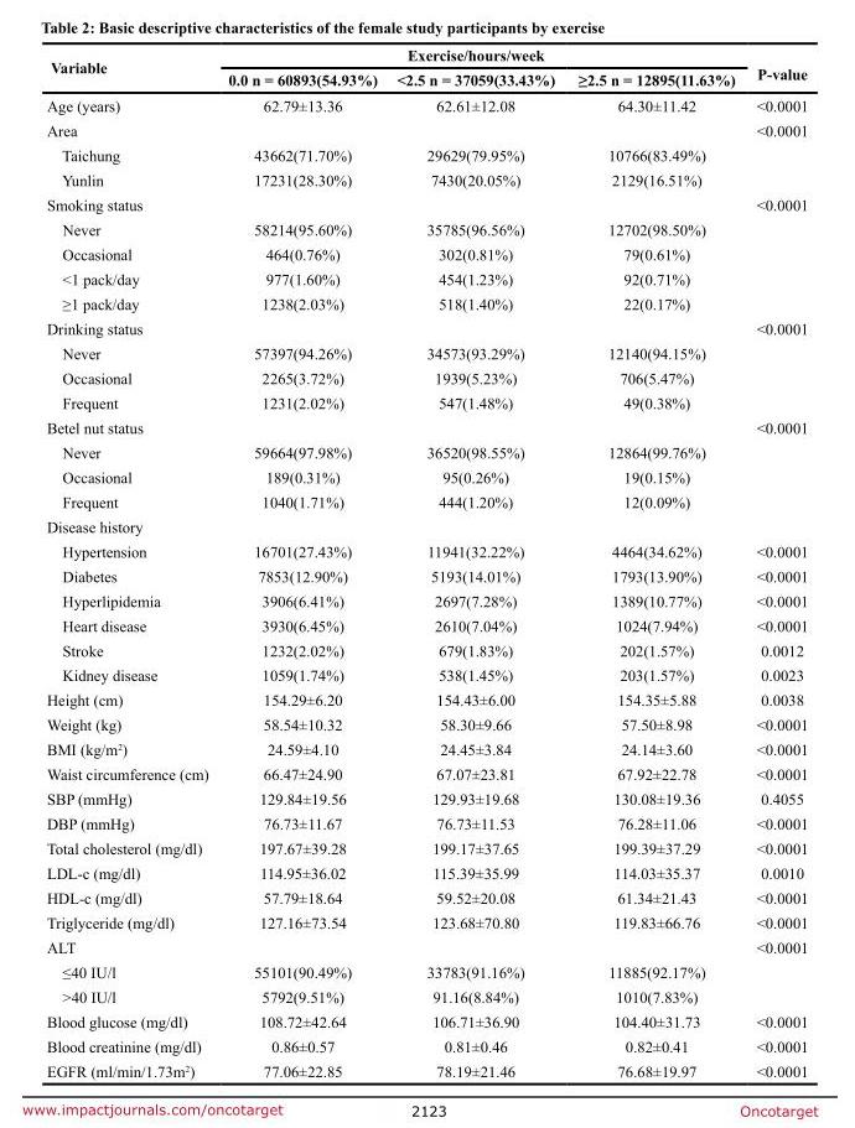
<table><thead><tr><td rowspan="2">Variable</td><td colspan="3">Exercise/hours/week</td><td rowspan="2">P-value</td></tr><tr><td>0.0 n = 60893(54.93%)</td><td>&lt;2.5 n = 37059(33.43%)</td><td>≥2.5 n = 12895(11.63%)</td></tr></thead><tbody><tr><td>Age (years)</td><td>62.79±13.36</td><td>62.61±12.08</td><td>64.30±11.42</td><td>&lt;0.0001</td></tr><tr><td>Area</td><td></td><td></td><td></td><td>&lt;0.0001</td></tr><tr><td>Taichung</td><td>43662(71.70%)</td><td>29629(79.95%)</td><td>10766(83.49%)</td><td></td></tr><tr><td>Yunlin</td><td>17231(28.30%)</td><td>7430(20.05%)</td><td>2129(16.51%)</td><td></td></tr><tr><td>Smoking status</td><td></td><td></td><td></td><td>&lt;0.0001</td></tr><tr><td>Never</td><td>58214(95.60%)</td><td>35785(96.56%)</td><td>12702(98.50%)</td><td></td></tr><tr><td>Occasional</td><td>464(0.76%)</td><td>302(0.81%)</td><td>79(0.61%)</td><td></td></tr><tr><td>&lt;1 pack/day</td><td>977(1.60%)</td><td>454(1.23%)</td><td>92(0.71%)</td><td></td></tr><tr><td>≥1 pack/day</td><td>1238(2.03%)</td><td>518(1.40%)</td><td>22(0.17%)</td><td></td></tr><tr><td>Drinking status</td><td></td><td></td><td></td><td>&lt;0.0001</td></tr><tr><td>Never</td><td>57397(94.26%)</td><td>34573(93.29%)</td><td>12140(94.15%)</td><td></td></tr><tr><td>Occasional</td><td>2265(3.72%)</td><td>1939(5.23%)</td><td>706(5.47%)</td><td></td></tr><tr><td>Frequent</td><td>1231(2.02%)</td><td>547(1.48%)</td><td>49(0.38%)</td><td></td></tr><tr><td>Betel nut status</td><td></td><td></td><td></td><td>&lt;0.0001</td></tr><tr><td>Never</td><td>59664(97.98%)</td><td>36520(98.55%)</td><td>12864(99.76%)</td><td></td></tr><tr><td>Occasional</td><td>189(0.31%)</td><td>95(0.26%)</td><td>19(0.15%)</td><td></td></tr><tr><td>Frequent</td><td>1040(1.71%)</td><td>444(1.20%)</td><td>12(0.09%)</td><td></td></tr><tr><td colspan="5">Disease history</td></tr><tr><td>Hypertension</td><td>16701(27.43%)</td><td>11941(32.22%)</td><td>4464(34.62%)</td><td>&lt;0.0001</td></tr><tr><td>Diabetes</td><td>7853(12.90%)</td><td>5193(14.01%)</td><td>1793(13.90%)</td><td>&lt;0.0001</td></tr><tr><td>Hyperlipidemia</td><td>3906(6.41%)</td><td>2697(7.28%)</td><td>1389(10.77%)</td><td>&lt;0.0001</td></tr><tr><td>Heart disease</td><td>3930(6.45%)</td><td>2610(7.04%)</td><td>1024(7.94%)</td><td>&lt;0.0001</td></tr><tr><td>Stroke</td><td>1232(2.02%)</td><td>679(1.83%)</td><td>202(1.57%)</td><td>0.0012</td></tr><tr><td>Kidney disease</td><td>1059(1.74%)</td><td>538(1.45%)</td><td>203(1.57%)</td><td>0.0023</td></tr><tr><td>Height (cm)</td><td>154.29±6.20</td><td>154.43±6.00</td><td>154.35±5.88</td><td>0.0038</td></tr><tr><td>Weight (kg)</td><td>58.54±10.32</td><td>58.30±9.66</td><td>57.50±8.98</td><td>&lt;0.0001</td></tr><tr><td>BMI (kg/m<sup>2</sup>)</td><td>24.59±4.10</td><td>24.45±3.84</td><td>24.14±3.60</td><td>&lt;0.0001</td></tr><tr><td>Waist circumference (cm)</td><td>66.47±24.90</td><td>67.07±23.81</td><td>67.92±22.78</td><td>&lt;0.0001</td></tr><tr><td>SBP (mmHg)</td><td>129.84±19.56</td><td>129.93±19.68</td><td>130.08±19.36</td><td>0.4055</td></tr><tr><td>DBP (mmHg)</td><td>76.73±11.67</td><td>76.73±11.53</td><td>76.28±11.06</td><td>&lt;0.0001</td></tr><tr><td>Total cholesterol (mg/dl)</td><td>197.67±39.28</td><td>199.17±37.65</td><td>199.39±37.29</td><td>&lt;0.0001</td></tr><tr><td>LDL-c (mg/dl)</td><td>114.95±36.02</td><td>115.39±35.99</td><td>114.03±35.37</td><td>0.0010</td></tr><tr><td>HDL-c (mg/dl)</td><td>57.79±18.64</td><td>59.52±20.08</td><td>61.34±21.43</td><td>&lt;0.0001</td></tr><tr><td>Triglyceride (mg/dl)</td><td>127.16±73.54</td><td>123.68±70.80</td><td>119.83±66.76</td><td>&lt;0.0001</td></tr><tr><td>ALT</td><td></td><td></td><td></td><td>&lt;0.0001</td></tr><tr><td>≤40 IU/l</td><td>55101(90.49%)</td><td>33783(91.16%)</td><td>11885(92.17%)</td><td></td></tr><tr><td>&gt;40 IU/l</td><td>5792(9.51%)</td><td>91.16(8.84%)</td><td>1010(7.83%)</td><td></td></tr><tr><td>Blood glucose (mg/dl)</td><td>108.72±42.64</td><td>106.71±36.90</td><td>104.40±31.73</td><td>&lt;0.0001</td></tr><tr><td>Blood creatinine (mg/dl)</td><td>0.86±0.57</td><td>0.81±0.46</td><td>0.82±0.41</td><td>&lt;0.0001</td></tr><tr><td>EGFR (ml/min/1.73m<sup>2</sup>)</td><td>77.06±22.85</td><td>78.19±21.46</td><td>76.68±19.97</td><td>&lt;0.0001</td></tr></tbody></table>